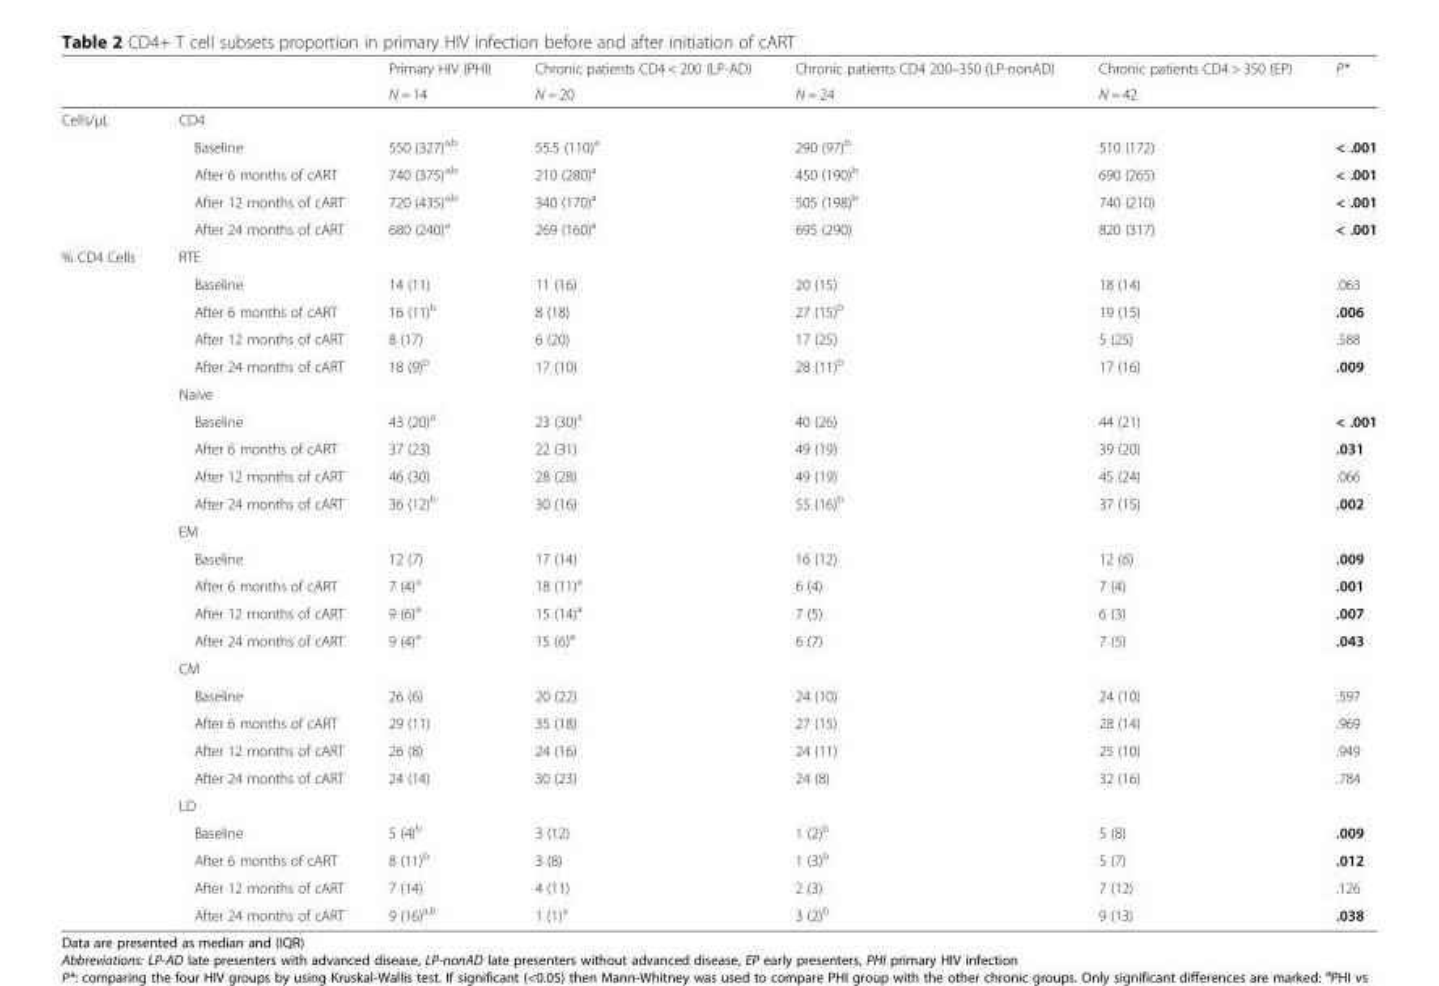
<table><thead><tr><td rowspan="2"></td><td rowspan="2"></td><td rowspan="2">Primary HIV (PHI) N = 14</td><td rowspan="2">Chronic patients CD4 &lt; 200 (LP-AD) N = 20</td><td rowspan="2">Chronic patients CD4 200–350 (LP-nonAD) N = 24</td><td rowspan="2">Chronic patients CD4 &gt; 350 (EP) N = 42</td><td rowspan="2">P*</td></tr><tr></tr></thead><tbody><tr><td rowspan="5">Cells/μL</td><td colspan="6">CD4</td></tr><tr><td>Baseline</td><td>550 (327)<sup>a,b</sup></td><td>55.5 (110)<sup>a</sup></td><td>290 (97)<sup>b</sup></td><td>510 (172)</td><td>&lt; .001</td></tr><tr><td>After 6 months of cART</td><td>740 (375)<sup>a,b</sup></td><td>210 (280)<sup>a</sup></td><td>450 (190)<sup>b</sup></td><td>690 (265)</td><td>&lt; .001</td></tr><tr><td>After 12 months of cART</td><td>720 (435)<sup>a,b</sup></td><td>340 (170)<sup>a</sup></td><td>505 (198)<sup>b</sup></td><td>740 (210)</td><td>&lt; .001</td></tr><tr><td>After 24 months of cART</td><td>680 (240)<sup>a</sup></td><td>269 (160)<sup>a</sup></td><td>695 (290)</td><td>820 (317)</td><td>&lt; .001</td></tr><tr><td rowspan="25">% CD4 Cells</td><td colspan="6">RTE</td></tr><tr><td>Baseline</td><td>14 (11)</td><td>11 (16)</td><td>20 (15)</td><td>18 (14)</td><td>.063</td></tr><tr><td>After 6 months of cART</td><td>16 (11)<sup>b</sup></td><td>8 (18)</td><td>27 (15)<sup>b</sup></td><td>19 (15)</td><td>.006</td></tr><tr><td>After 12 months of cART</td><td>8 (17)</td><td>6 (20)</td><td>17 (25)</td><td>5 (25)</td><td>.588</td></tr><tr><td>After 24 months of cART</td><td>18 (9)<sup>b</sup></td><td>17 (10)</td><td>28 (11)<sup>b</sup></td><td>17 (16)</td><td>.009</td></tr><tr><td colspan="6">Naive</td></tr><tr><td>Baseline</td><td>43 (20)<sup>a</sup></td><td>23 (30)<sup>a</sup></td><td>40 (26)</td><td>44 (21)</td><td>&lt; .001</td></tr><tr><td>After 6 months of cART</td><td>37 (23)</td><td>22 (31)</td><td>49 (19)</td><td>39 (20)</td><td>.031</td></tr><tr><td>After 12 months of cART</td><td>46 (30)</td><td>28 (28)</td><td>49 (19)</td><td>45 (24)</td><td>.066</td></tr><tr><td>After 24 months of cART</td><td>36 (12)<sup>b</sup></td><td>30 (16)</td><td>55 (16)<sup>b</sup></td><td>37 (15)</td><td>.002</td></tr><tr><td colspan="6">EM</td></tr><tr><td>Baseline</td><td>12 (7)</td><td>17 (14)</td><td>16 (12)</td><td>12 (6)</td><td>.009</td></tr><tr><td>After 6 months of cART</td><td>7 (4)<sup>a</sup></td><td>18 (11)<sup>a</sup></td><td>6 (4)</td><td>7 (4)</td><td>.001</td></tr><tr><td>After 12 months of cART</td><td>9 (6)<sup>a</sup></td><td>15 (14)<sup>a</sup></td><td>7 (5)</td><td>6 (3)</td><td>.007</td></tr><tr><td>After 24 months of cART</td><td>9 (4)<sup>a</sup></td><td>15 (6)<sup>a</sup></td><td>6 (7)</td><td>7 (5)</td><td>.043</td></tr><tr><td colspan="6">CM</td></tr><tr><td>Baseline</td><td>26 (6)</td><td>20 (22)</td><td>24 (10)</td><td>24 (10)</td><td>.597</td></tr><tr><td>After 6 months of cART</td><td>29 (11)</td><td>35 (18)</td><td>27 (15)</td><td>28 (14)</td><td>.969</td></tr><tr><td>After 12 months of cART</td><td>26 (8)</td><td>24 (16)</td><td>24 (11)</td><td>25 (10)</td><td>.949</td></tr><tr><td>After 24 months of cART</td><td>24 (14)</td><td>30 (23)</td><td>24 (8)</td><td>32 (16)</td><td>.784</td></tr><tr><td colspan="6">LD</td></tr><tr><td>Baseline</td><td>5 (4)<sup>b</sup></td><td>3 (12)</td><td>1 (2)<sup>b</sup></td><td>5 (8)</td><td>.009</td></tr><tr><td>After 6 months of cART</td><td>8 (11)<sup>b</sup></td><td>3 (8)</td><td>1 (3)<sup>b</sup></td><td>5 (7)</td><td>.012</td></tr><tr><td>After 12 months of cART</td><td>7 (14)</td><td>4 (11)</td><td>2 (3)</td><td>7 (12)</td><td>.126</td></tr><tr><td>After 24 months of cART</td><td>9 (16)<sup>a,b</sup></td><td>1 (1)<sup>a</sup></td><td>3 (2)<sup>b</sup></td><td>9 (13)</td><td>.038</td></tr></tbody></table>